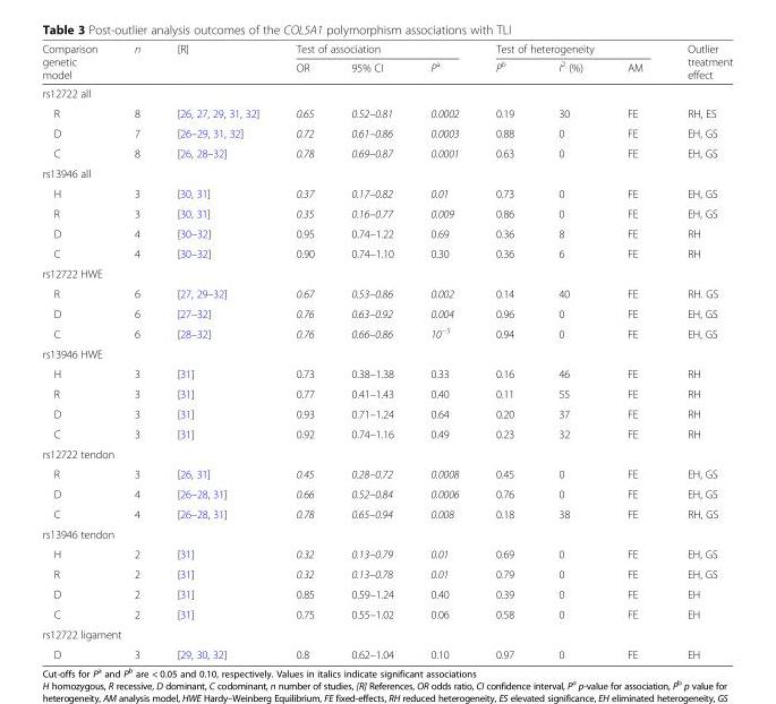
<table><thead><tr><td rowspan="2">Comparison genetic model</td><td rowspan="2">n</td><td rowspan="2">[R]</td><td colspan="3">Test of association</td><td colspan="3">Test of heterogeneity</td><td rowspan="2">Outlier treatment effect</td></tr><tr><td>OR</td><td>95% CI</td><td>P<sup>a</sup></td><td>P<sup>b</sup></td><td>I<sup>2</sup> (%)</td><td>AM</td></tr></thead><tbody><tr><td colspan="10">rs12722 all</td></tr><tr><td>R</td><td>8</td><td>[26, 27, 29, 31, 32]</td><td>0.65</td><td>0.52–0.81</td><td>0.0002</td><td>0.19</td><td>30</td><td>FE</td><td>RH, ES</td></tr><tr><td>D</td><td>7</td><td>[26–29, 31, 32]</td><td>0.72</td><td>0.61–0.86</td><td>0.0003</td><td>0.88</td><td>0</td><td>FE</td><td>EH, GS</td></tr><tr><td>C</td><td>8</td><td>[26, 28–32]</td><td>0.78</td><td>0.69–0.87</td><td>0.0001</td><td>0.63</td><td>0</td><td>FE</td><td>EH, GS</td></tr><tr><td colspan="10">rs13946 all</td></tr><tr><td>H</td><td>3</td><td>[30, 31]</td><td>0.37</td><td>0.17–0.82</td><td>0.01</td><td>0.73</td><td>0</td><td>FE</td><td>EH, GS</td></tr><tr><td>R</td><td>3</td><td>[30, 31]</td><td>0.35</td><td>0.16–0.77</td><td>0.009</td><td>0.86</td><td>0</td><td>FE</td><td>EH, GS</td></tr><tr><td>D</td><td>4</td><td>[30–32]</td><td>0.95</td><td>0.74–1.22</td><td>0.69</td><td>0.36</td><td>8</td><td>FE</td><td>RH</td></tr><tr><td>C</td><td>4</td><td>[30–32]</td><td>0.90</td><td>0.74–1.10</td><td>0.30</td><td>0.36</td><td>6</td><td>FE</td><td>RH</td></tr><tr><td colspan="10">rs12722 HWE</td></tr><tr><td>R</td><td>6</td><td>[27, 29–32]</td><td>0.67</td><td>0.53–0.86</td><td>0.002</td><td>0.14</td><td>40</td><td>FE</td><td>RH. GS</td></tr><tr><td>D</td><td>6</td><td>[27–32]</td><td>0.76</td><td>0.63–0.92</td><td>0.004</td><td>0.96</td><td>0</td><td>FE</td><td>EH, GS</td></tr><tr><td>C</td><td>6</td><td>[28–32]</td><td>0.76</td><td>0.66–0.86</td><td>10<sup>−5</sup></td><td>0.94</td><td>0</td><td>FE</td><td>EH, GS</td></tr><tr><td colspan="10">rs13946 HWE</td></tr><tr><td>H</td><td>3</td><td>[31]</td><td>0.73</td><td>0.38–1.38</td><td>0.33</td><td>0.16</td><td>46</td><td>FE</td><td>RH</td></tr><tr><td>R</td><td>3</td><td>[31]</td><td>0.77</td><td>0.41–1.43</td><td>0.40</td><td>0.11</td><td>55</td><td>FE</td><td>RH</td></tr><tr><td>D</td><td>3</td><td>[31]</td><td>0.93</td><td>0.71–1.24</td><td>0.64</td><td>0.20</td><td>37</td><td>FE</td><td>RH</td></tr><tr><td>C</td><td>3</td><td>[31]</td><td>0.92</td><td>0.74–1.16</td><td>0.49</td><td>0.23</td><td>32</td><td>FE</td><td>RH</td></tr><tr><td colspan="10">rs12722 tendon</td></tr><tr><td>R</td><td>3</td><td>[26, 31]</td><td>0.45</td><td>0.28–0.72</td><td>0.0008</td><td>0.45</td><td>0</td><td>FE</td><td>EH, GS</td></tr><tr><td>D</td><td>4</td><td>[26–28, 31]</td><td>0.66</td><td>0.52–0.84</td><td>0.0006</td><td>0.76</td><td>0</td><td>FE</td><td>EH, GS</td></tr><tr><td>C</td><td>4</td><td>[26–28, 31]</td><td>0.78</td><td>0.65–0.94</td><td>0.008</td><td>0.18</td><td>38</td><td>FE</td><td>RH, GS</td></tr><tr><td colspan="10">rs13946 tendon</td></tr><tr><td>H</td><td>2</td><td>[31]</td><td>0.32</td><td>0.13–0.79</td><td>0.01</td><td>0.69</td><td>0</td><td>FE</td><td>EH, GS</td></tr><tr><td>R</td><td>2</td><td>[31]</td><td>0.32</td><td>0.13–0.78</td><td>0.01</td><td>0.79</td><td>0</td><td>FE</td><td>EH, GS</td></tr><tr><td>D</td><td>2</td><td>[31]</td><td>0.85</td><td>0.59–1.24</td><td>0.40</td><td>0.39</td><td>0</td><td>FE</td><td>EH</td></tr><tr><td>C</td><td>2</td><td>[31]</td><td>0.75</td><td>0.55–1.02</td><td>0.06</td><td>0.58</td><td>0</td><td>FE</td><td>EH</td></tr><tr><td colspan="10">rs12722 ligament</td></tr><tr><td>D</td><td>3</td><td>[29, 30, 32]</td><td>0.8</td><td>0.62–1.04</td><td>0.10</td><td>0.97</td><td>0</td><td>FE</td><td>EH</td></tr></tbody></table>